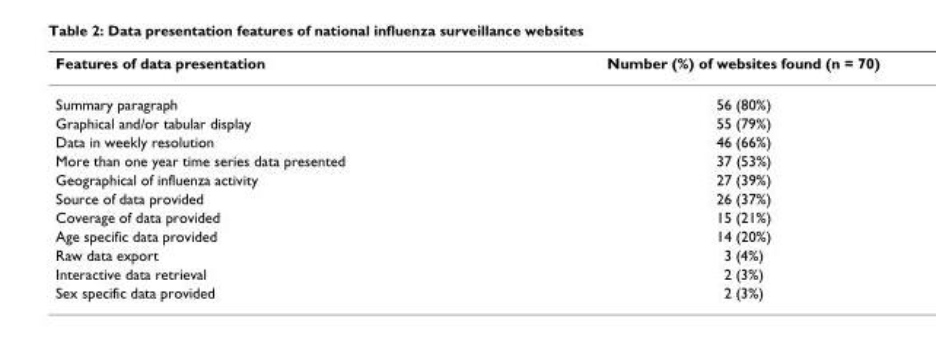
<table><thead><tr><td>Features of data presentation</td><td>Number (%) of websites found (n = 70)</td></tr></thead><tbody><tr><td>Summary paragraph</td><td>56 (80%)</td></tr><tr><td>Graphical and/or tabular display</td><td>55 (79%)</td></tr><tr><td>Data in weekly resolution</td><td>46 (66%)</td></tr><tr><td>More than one year time series data presented</td><td>37 (53%)</td></tr><tr><td>Geographical of influenza activity</td><td>27 (39%)</td></tr><tr><td>Source of data provided</td><td>26 (37%)</td></tr><tr><td>Coverage of data provided</td><td>15 (21%)</td></tr><tr><td>Age specific data provided</td><td>14 (20%)</td></tr><tr><td>Raw data export</td><td>3 (4%)</td></tr><tr><td>Interactive data retrieval</td><td>2 (3%)</td></tr><tr><td>Sex specific data provided</td><td>2 (3%)</td></tr></tbody></table>